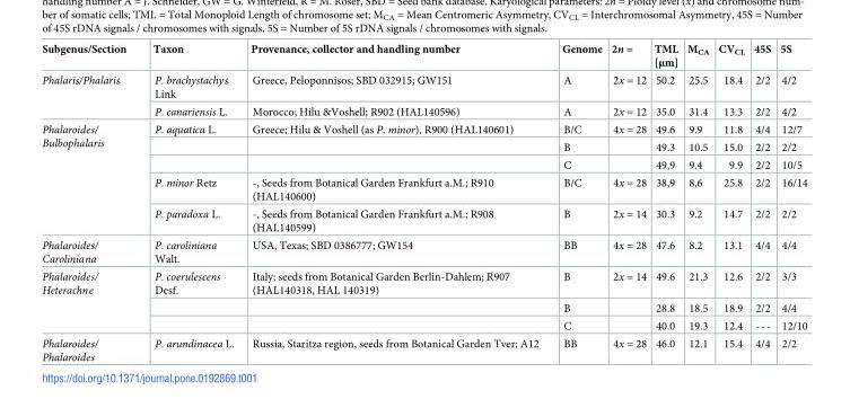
<table><thead><tr><td>Subgenus/Section</td><td>Taxon</td><td>Provenance, collector and handling number</td><td>Genome</td><td>2n =</td><td>TML [μm]</td><td>M<sub>CA</sub></td><td>CV<sub>CL</sub></td><td>45S</td><td>5S</td></tr></thead><tbody><tr><td rowspan="2">Phalaris/Phalaris</td><td>P. brachystachys Link</td><td>Greece, Peloponnisos; SBD 032915; GW151</td><td>A</td><td>2x = 12</td><td>50.2</td><td>25.5</td><td>18.4</td><td>2/2</td><td>4/2</td></tr><tr><td>P. canariensis L.</td><td>Morocco; Hilu &amp;Voshell; R902 (HAL140596)</td><td>A</td><td>2x = 12</td><td>35.0</td><td>31.4</td><td>13.3</td><td>2/2</td><td>4/2</td></tr><tr><td rowspan="5">Phalaroides/ Bulbophalaris</td><td>P. aquatica L.</td><td>Greece; Hilu &amp; Voshell (as P. minor), R900 (HAL140601)</td><td>B/C</td><td>4x = 28</td><td>49.6</td><td>9.9</td><td>11.8</td><td>4/4</td><td>12/7</td></tr><tr><td></td><td></td><td>B</td><td></td><td>49.3</td><td>10.5</td><td>15.0</td><td>2/2</td><td>2/2</td></tr><tr><td></td><td></td><td>C</td><td></td><td>49,9</td><td>9.4</td><td>9.9</td><td>2/2</td><td>10/5</td></tr><tr><td>P. minor Retz</td><td>-, Seeds from Botanical Garden Frankfurt a.M.; R910 (HAL140600)</td><td>B/C</td><td>4x = 28</td><td>38,9</td><td>8,6</td><td>25.8</td><td>2/2</td><td>16/14</td></tr><tr><td>P. paradoxa L.</td><td>-, Seeds from Botanical Garden Frankfurt a.M.; R908 (HAL140599)</td><td>B</td><td>2x = 14</td><td>30.3</td><td>9.2</td><td>14.7</td><td>2/2</td><td>2/2</td></tr><tr><td>Phalaroides/ Caroliniana</td><td>P. caroliniana Walt.</td><td>USA, Texas; SBD 0386777; GW154</td><td>BB</td><td>4x = 28</td><td>47.6</td><td>8.2</td><td>13.1</td><td>4/4</td><td>4/4</td></tr><tr><td rowspan="3">Phalaroides/ Heterachne</td><td>P. coerulescens Desf.</td><td>Italy; seeds from Botanical Garden Berlin-Dahlem; R907 (HAL140318, HAL 140319)</td><td>B</td><td>2x = 14</td><td>49.6</td><td>21.3</td><td>12.6</td><td>2/2</td><td>3/3</td></tr><tr><td></td><td></td><td>B</td><td></td><td>28.8</td><td>18.5</td><td>18.9</td><td>2/2</td><td>4/4</td></tr><tr><td></td><td></td><td>C</td><td></td><td>40.0</td><td>19.3</td><td>12.4</td><td>---</td><td>12/10</td></tr><tr><td>Phalaroides/ Phalaroides</td><td>P. arundinacea L.</td><td>Russia, Staritza region, seeds from Botanical Garden Tver; A12</td><td>BB</td><td>4x = 28</td><td>46.0</td><td>12.1</td><td>15.4</td><td>4/4</td><td>2/2</td></tr></tbody></table>